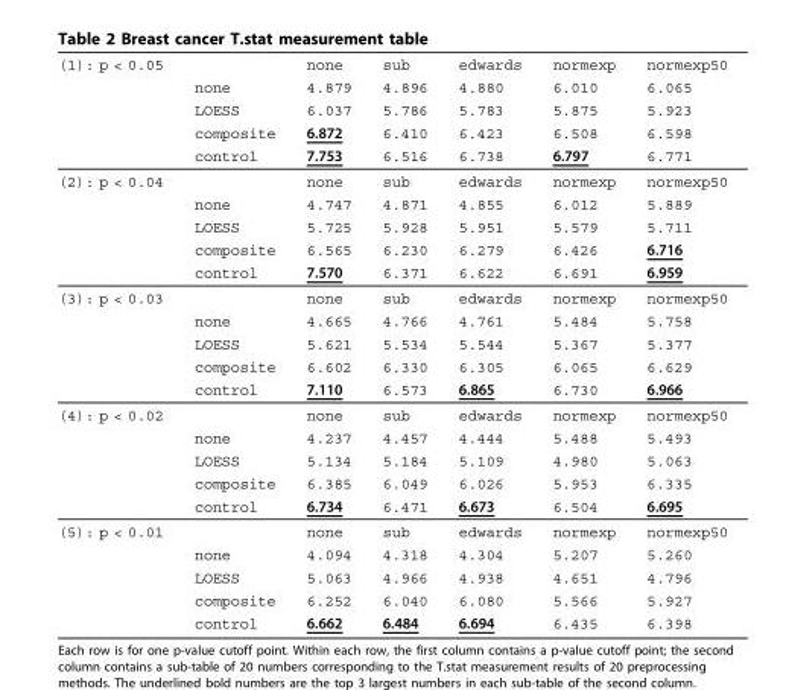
<table><thead><tr><td rowspan="5">(1): p &lt; 0.05</td><td rowspan="5">none LOESS composite control</td><td rowspan="5">none 4.879 6.037 6.872 7.753</td><td rowspan="5">sub 4.896 5.786 6.410 6.516</td><td rowspan="5">edwards 4.880 5.783 6.423 6.738</td><td rowspan="5">normexp 6.010 5.875 6.508 6.797</td><td rowspan="5">normexp50 6.065 5.923 6.598 6.771</td></tr><tr></tr><tr></tr><tr></tr><tr></tr></thead><tbody><tr><td rowspan="5">(2): p &lt; 0.04</td><td></td><td>none</td><td>sub</td><td>edwards</td><td>normexp</td><td>normexp50</td></tr><tr><td>none</td><td>4.747</td><td>4.871</td><td>4.855</td><td>6.012</td><td>5.889</td></tr><tr><td>LOESS</td><td>5.725</td><td>5.928</td><td>5.951</td><td>5.579</td><td>5.711</td></tr><tr><td>composite</td><td>6.565</td><td>6.230</td><td>6.279</td><td>6.426</td><td>6.716</td></tr><tr><td>control</td><td>7.570</td><td>6.371</td><td>6.622</td><td>6.691</td><td>6.959</td></tr><tr><td rowspan="5">(3): p &lt; 0.03</td><td></td><td>none</td><td>sub</td><td>edwards</td><td>normexp</td><td>normexp50</td></tr><tr><td>none</td><td>4.665</td><td>4.766</td><td>4.761</td><td>5.484</td><td>5.758</td></tr><tr><td>LOESS</td><td>5.621</td><td>5.534</td><td>5.544</td><td>5.367</td><td>5.377</td></tr><tr><td>composite</td><td>6.602</td><td>6.330</td><td>6.305</td><td>6.065</td><td>6.629</td></tr><tr><td>control</td><td>7.110</td><td>6.573</td><td>6.865</td><td>6.730</td><td>6.966</td></tr><tr><td rowspan="5">(4): p &lt; 0.02</td><td></td><td>none</td><td>sub</td><td>edwards</td><td>normexp</td><td>normexp50</td></tr><tr><td>none</td><td>4.237</td><td>4.457</td><td>4.444</td><td>5.488</td><td>5.493</td></tr><tr><td>LOESS</td><td>5.134</td><td>5.184</td><td>5.109</td><td>4.980</td><td>5.063</td></tr><tr><td>composite</td><td>6.385</td><td>6.049</td><td>6.026</td><td>5.953</td><td>6.335</td></tr><tr><td>control</td><td>6.734</td><td>6.471</td><td>6.673</td><td>6.504</td><td>6.695</td></tr><tr><td rowspan="5">(5): p &lt; 0.01</td><td></td><td>none</td><td>sub</td><td>edwards</td><td>normexp</td><td>normexp50</td></tr><tr><td>none</td><td>4.094</td><td>4.318</td><td>4.304</td><td>5.207</td><td>5.260</td></tr><tr><td>LOESS</td><td>5.063</td><td>4.966</td><td>4.938</td><td>4.651</td><td>4.796</td></tr><tr><td>composite</td><td>6.252</td><td>6.040</td><td>6.080</td><td>5.566</td><td>5.927</td></tr><tr><td>control</td><td>6.662</td><td>6.484</td><td>6.694</td><td>6.435</td><td>6.398</td></tr></tbody></table>